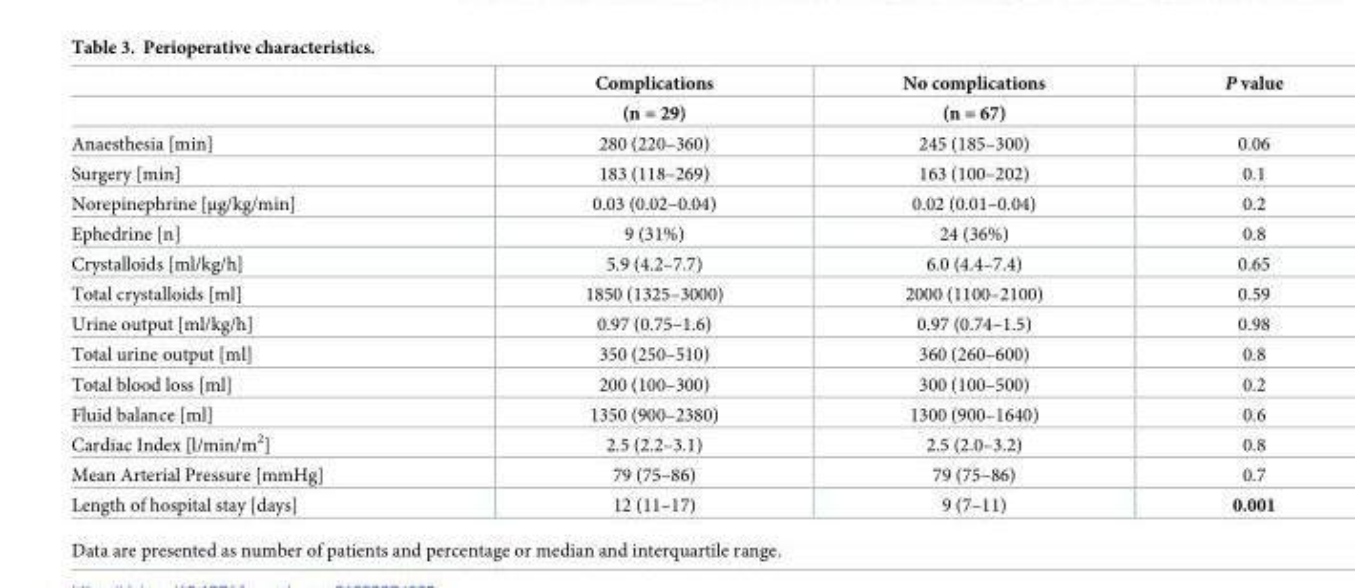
<table><thead><tr><td rowspan="2"></td><td rowspan="2">Complications (n = 29)</td><td rowspan="2">No complications (n = 67)</td><td rowspan="2">P value</td></tr><tr></tr></thead><tbody><tr><td>Anaesthesia [min]</td><td>280 (220–360)</td><td>245 (185–300)</td><td>0.06</td></tr><tr><td>Surgery [min]</td><td>183 (118–269)</td><td>163 (100–202)</td><td>0.1</td></tr><tr><td>Norepinephrine [μg/kg/min]</td><td>0.03 (0.02–0.04)</td><td>0.02 (0.01–0.04)</td><td>0.2</td></tr><tr><td>Ephedrine [n]</td><td>9 (31%)</td><td>24 (36%)</td><td>0.8</td></tr><tr><td>Crystalloids [ml/kg/h]</td><td>5.9 (4.2–7.7)</td><td>6.0 (4.4–7.4)</td><td>0.65</td></tr><tr><td>Total crystalloids [ml]</td><td>1850 (1325–3000)</td><td>2000 (1100–2100)</td><td>0.59</td></tr><tr><td>Urine output [ml/kg/h]</td><td>0.97 (0.75–1.6)</td><td>0.97 (0.74–1.5)</td><td>0.98</td></tr><tr><td>Total urine output [ml]</td><td>350 (250–510)</td><td>360 (260–600)</td><td>0.8</td></tr><tr><td>Total blood loss [ml]</td><td>200 (100–300)</td><td>300 (100–500)</td><td>0.2</td></tr><tr><td>Fluid balance [ml]</td><td>1350 (900–2380)</td><td>1300 (900–1640)</td><td>0.6</td></tr><tr><td>Cardiac Index [l/min/m<sup>2</sup>]</td><td>2.5 (2.2–3.1)</td><td>2.5 (2.0–3.2)</td><td>0.8</td></tr><tr><td>Mean Arterial Pressure [mmHg]</td><td>79 (75–86)</td><td>79 (75–86)</td><td>0.7</td></tr><tr><td>Length of hospital stay [days]</td><td>12 (11–17)</td><td>9 (7–11)</td><td>0.001</td></tr></tbody></table>